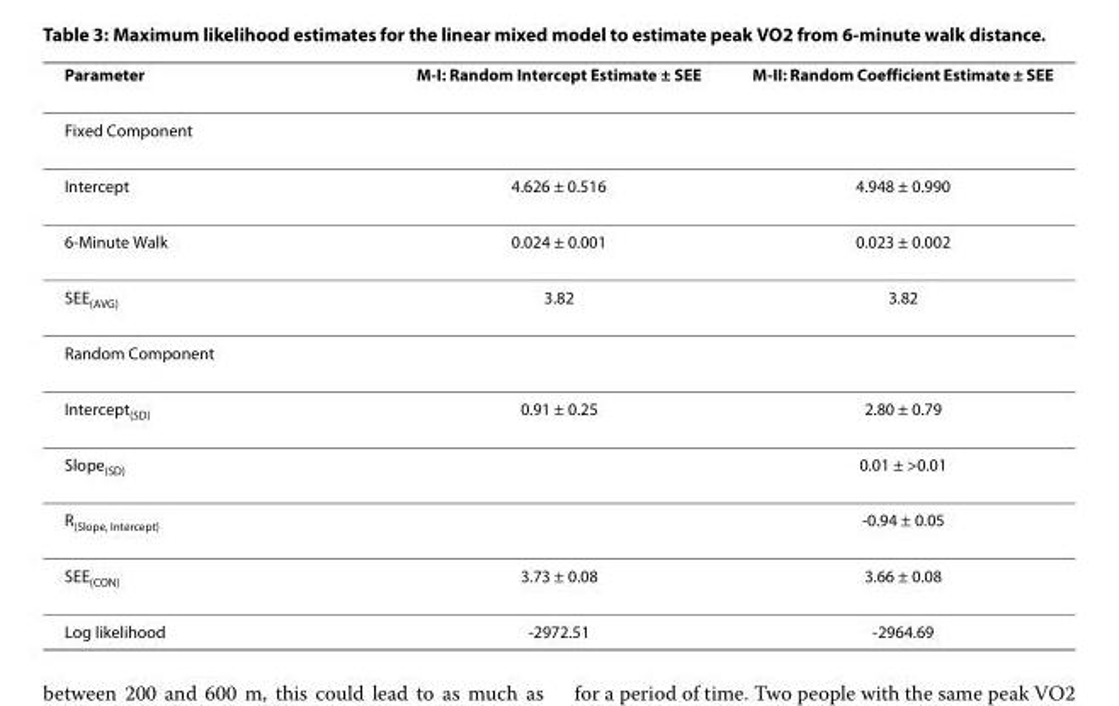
<table><thead><tr><td>Parameter</td><td>M-I: Random Intercept Estimate ± SEE</td><td>M-II: Random Coefficient Estimate ± SEE</td></tr></thead><tbody><tr><td colspan="3">Fixed Component</td></tr><tr><td>Intercept</td><td>4.626 ± 0.516</td><td>4.948 ± 0.990</td></tr><tr><td>6-Minute Walk</td><td>0.024 ± 0.001</td><td>0.023 ± 0.002</td></tr><tr><td>SEE<sub>(AVG)</sub></td><td>3.82</td><td>3.82</td></tr><tr><td colspan="3">Random Component</td></tr><tr><td>Intercept<sub>(SD)</sub></td><td>0.91 ± 0.25</td><td>2.80 ± 0.79</td></tr><tr><td>Slope<sub>(SD)</sub></td><td></td><td>0.01 ± &gt;0.01</td></tr><tr><td>R<sub>(Slope, Intercept)</sub></td><td></td><td>-0.94 ± 0.05</td></tr><tr><td>SEE<sub>(CON)</sub></td><td>3.73 ± 0.08</td><td>3.66 ± 0.08</td></tr><tr><td>Log likelihood</td><td>-2972.51</td><td>-2964.69</td></tr></tbody></table>